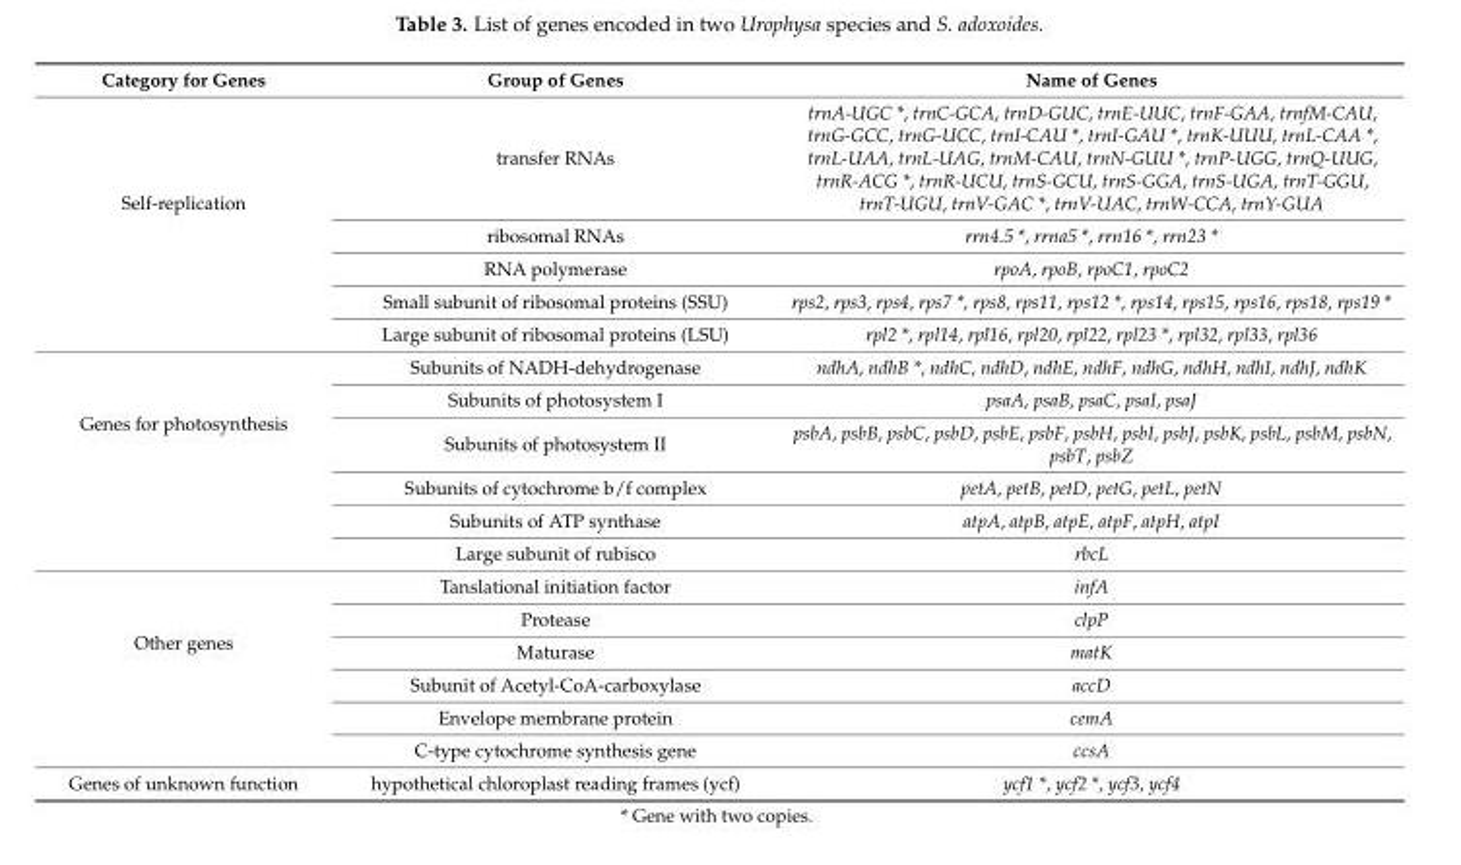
<table><thead><tr><td>Category for Genes</td><td>Group of Genes</td><td>Name of Genes</td></tr></thead><tbody><tr><td rowspan="5">Self-replication</td><td>transfer RNAs</td><td>trnA-UGC *, trnC-GCA, trnD-GUC, trnE-UUC, trnF-GAA, trnfM-CAU, trnG-GCC, trnG-UCC, trnI-CAU *, trnI-GAU *, trnK-UUU, trnL-CAA *, trnL-UAA, trnL-UAG, trnM-CAU, trnN-GUU *, trnP-UGG, trnQ-UUG, trnR-ACG *, trnR-UCU, trnS-GCU, trnS-GGA, trnS-UGA, trnT-GGU, trnT-UGU, trnV-GAC *, trnV-UAC, trnW-CCA, trnY-GUA</td></tr><tr><td>ribosomal RNAs</td><td>rrn4.5 *, rrna5 *, rrn16 *, rrn23 *</td></tr><tr><td>RNA polymerase</td><td>rpoA, rpoB, rpoC1, rpoC2</td></tr><tr><td>Small subunit of ribosomal proteins (SSU)</td><td>rps2, rps3, rps4, rps7 *, rps8, rps11, rps12 *, rps14, rps15, rps16, rps18, rps19 *</td></tr><tr><td>Large subunit of ribosomal proteins (LSU)</td><td>rpl2 *, rpl14, rpl16, rpl20, rpl22, rpl23 *, rpl32, rpl33, rpl36</td></tr><tr><td rowspan="6">Genes for photosynthesis</td><td>Subunits of NADH-dehydrogenase</td><td>ndhA, ndhB *, ndhC, ndhD, ndhE, ndhF, ndhG, ndhH, ndhI, ndhJ, ndhK</td></tr><tr><td>Subunits of photosystem I</td><td>psaA, psaB, psaC, psaI, psaJ</td></tr><tr><td>Subunits of photosystem II</td><td>psbA, psbB, psbC, psbD, psbE, psbF, psbH, psbI, psbJ, psbK, psbL, psbM, psbN, psbT, psbZ</td></tr><tr><td>Subunits of cytochrome b/f complex</td><td>petA, petB, petD, petG, petL, petN</td></tr><tr><td>Subunits of ATP synthase</td><td>atpA, atpB, atpE, atpF, atpH, atpI</td></tr><tr><td>Large subunit of rubisco</td><td>rbcL</td></tr><tr><td rowspan="6">Other genes</td><td>Tanslational initiation factor</td><td>infA</td></tr><tr><td>Protease</td><td>clpP</td></tr><tr><td>Maturase</td><td>matK</td></tr><tr><td>Subunit of Acetyl-CoA-carboxylase</td><td>accD</td></tr><tr><td>Envelope membrane protein</td><td>cemA</td></tr><tr><td>C-type cytochrome synthesis gene</td><td>ccsA</td></tr><tr><td>Genes of unknown function</td><td>hypothetical chloroplast reading frames (ycf)</td><td>ycf1 *, ycf2 *, ycf3, ycf4</td></tr></tbody></table>